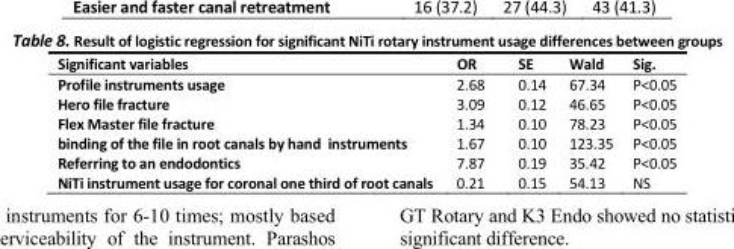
<table><thead><tr><td>Significant variables</td><td>OR</td><td>SE</td><td>Wald</td><td>Sig.</td></tr></thead><tbody><tr><td>Profile instruments usage</td><td>2.68</td><td>0.14</td><td>67.34</td><td>P&lt;0.05</td></tr><tr><td>Hero file fracture</td><td>3.09</td><td>0.12</td><td>46.65</td><td>P&lt;0.05</td></tr><tr><td>Flex Master file fracture</td><td>1.34</td><td>0.10</td><td>78.23</td><td>P&lt;0.05</td></tr><tr><td>binding of the file in root canals by hand instruments</td><td>1.67</td><td>0.10</td><td>123.35</td><td>P&lt;0.05</td></tr><tr><td>Referring to an endodontics</td><td>7.87</td><td>0.19</td><td>35.42</td><td>P&lt;0.05</td></tr><tr><td>NiTi instrument usage for coronal one third of root canals</td><td>0.21</td><td>0.15</td><td>54.13</td><td>NS</td></tr></tbody></table>